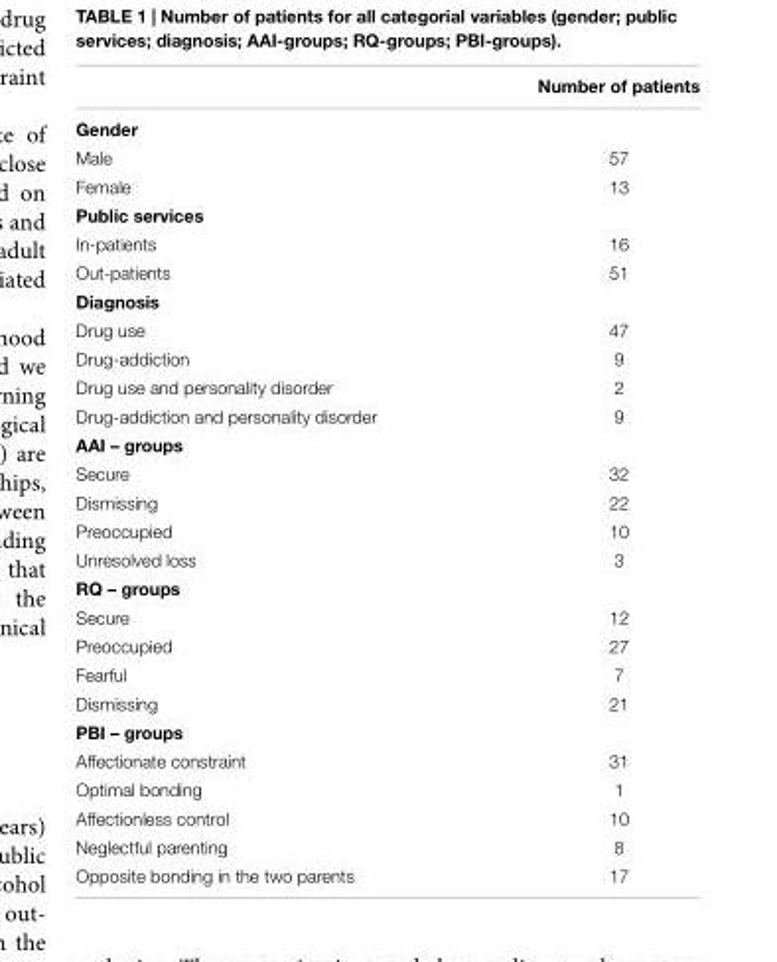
<table><thead><tr><td></td><td>Number of patients</td></tr></thead><tbody><tr><td colspan="2">Gender</td></tr><tr><td>Male</td><td>57</td></tr><tr><td>Female</td><td>13</td></tr><tr><td colspan="2">Public services</td></tr><tr><td>In-patients</td><td>16</td></tr><tr><td>Out-patients</td><td>51</td></tr><tr><td colspan="2">Diagnosis</td></tr><tr><td>Drug use</td><td>47</td></tr><tr><td>Drug-addiction</td><td>9</td></tr><tr><td>Drug use and personality disorder</td><td>2</td></tr><tr><td>Drug-addiction and personality disorder</td><td>9</td></tr><tr><td colspan="2">AAI – groups</td></tr><tr><td>Secure</td><td>32</td></tr><tr><td>Dismissing</td><td>22</td></tr><tr><td>Preoccupied</td><td>10</td></tr><tr><td>Unresolved loss</td><td>3</td></tr><tr><td colspan="2">RQ – groups</td></tr><tr><td>Secure</td><td>12</td></tr><tr><td>Preoccupied</td><td>27</td></tr><tr><td>Fearful</td><td>7</td></tr><tr><td>Dismissing</td><td>21</td></tr><tr><td colspan="2">PBI – groups</td></tr><tr><td>Affectionate constraint</td><td>31</td></tr><tr><td>Optimal bonding</td><td>1</td></tr><tr><td>Affectionless control</td><td>10</td></tr><tr><td>Neglectful parenting</td><td>8</td></tr><tr><td>Opposite bonding in the two parents</td><td>17</td></tr></tbody></table>